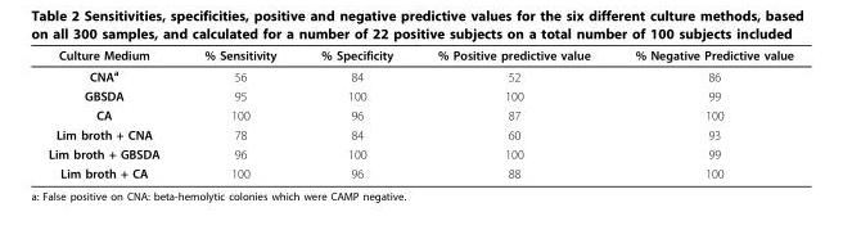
<table><thead><tr><td>Culture Medium</td><td>% Sensitivity</td><td>% Specificity</td><td>% Positive predictive value</td><td>% Negative Predictive value</td></tr></thead><tbody><tr><td>CNA<sup>a</sup></td><td>56</td><td>84</td><td>52</td><td>86</td></tr><tr><td>GBSDA</td><td>95</td><td>100</td><td>100</td><td>99</td></tr><tr><td>CA</td><td>100</td><td>96</td><td>87</td><td>100</td></tr><tr><td>Lim broth + CNA</td><td>78</td><td>84</td><td>60</td><td>93</td></tr><tr><td>Lim broth + GBSDA</td><td>96</td><td>100</td><td>100</td><td>99</td></tr><tr><td>Lim broth + CA</td><td>100</td><td>96</td><td>88</td><td>100</td></tr></tbody></table>